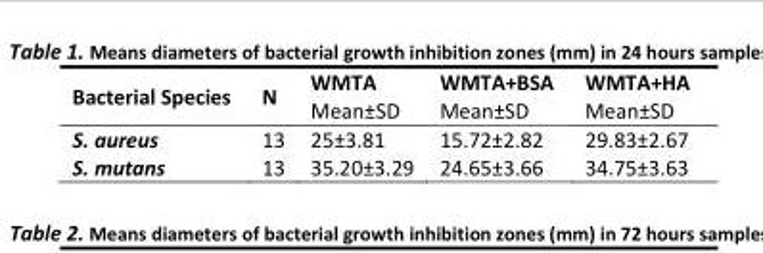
<table><thead><tr><td rowspan="2">Bacterial Species</td><td rowspan="2">N</td><td rowspan="2">WMTA Mean±SD</td><td rowspan="2">WMTA+BSA Mean±SD</td><td rowspan="2">WMTA+HA Mean±SD</td></tr><tr></tr></thead><tbody><tr><td>S. aureus</td><td>13</td><td>25±3.81</td><td>15.72±2.82</td><td>29.83±2.67</td></tr><tr><td>S. mutans</td><td>13</td><td>35.20±3.29</td><td>24.65±3.66</td><td>34.75±3.63</td></tr></tbody></table>